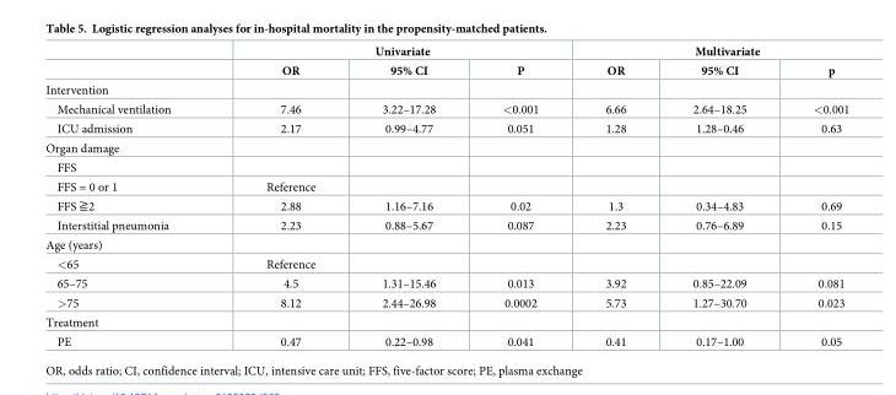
<table><thead><tr><td rowspan="2"></td><td colspan="3">Univariate</td><td colspan="3">Multivariate</td></tr><tr><td>OR</td><td>95% CI</td><td>P</td><td>OR</td><td>95% CI</td><td>p</td></tr></thead><tbody><tr><td colspan="7">Intervention</td></tr><tr><td>Mechanical ventilation</td><td>7.46</td><td>3.22–17.28</td><td>&lt;0.001</td><td>6.66</td><td>2.64–18.25</td><td>&lt;0.001</td></tr><tr><td>ICU admission</td><td>2.17</td><td>0.99–4.77</td><td>0.051</td><td>1.28</td><td>1.28–0.46</td><td>0.63</td></tr><tr><td colspan="7">Organ damage</td></tr><tr><td colspan="7">FFS</td></tr><tr><td>FFS = 0 or 1</td><td>Reference</td><td></td><td></td><td></td><td></td><td></td></tr><tr><td>FFS ≧2</td><td>2.88</td><td>1.16–7.16</td><td>0.02</td><td>1.3</td><td>0.34–4.83</td><td>0.69</td></tr><tr><td>Interstitial pneumonia</td><td>2.23</td><td>0.88–5.67</td><td>0.087</td><td>2.23</td><td>0.76–6.89</td><td>0.15</td></tr><tr><td colspan="7">Age (years)</td></tr><tr><td>&lt;65</td><td>Reference</td><td></td><td></td><td></td><td></td><td></td></tr><tr><td>65–75</td><td>4.5</td><td>1.31–15.46</td><td>0.013</td><td>3.92</td><td>0.85–22.09</td><td>0.081</td></tr><tr><td>&gt;75</td><td>8.12</td><td>2.44–26.98</td><td>0.0002</td><td>5.73</td><td>1.27–30.70</td><td>0.023</td></tr><tr><td colspan="7">Treatment</td></tr><tr><td>PE</td><td>0.47</td><td>0.22–0.98</td><td>0.041</td><td>0.41</td><td>0.17–1.00</td><td>0.05</td></tr></tbody></table>